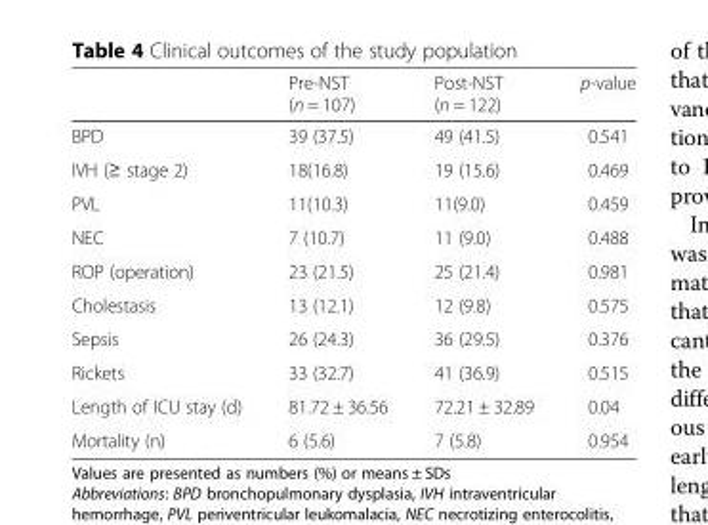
<table><thead><tr><td></td><td>Pre-NST (n = 107)</td><td>Post-NST (n = 122)</td><td>p-value</td></tr></thead><tbody><tr><td>BPD</td><td>39 (37.5)</td><td>49 (41.5)</td><td>0.541</td></tr><tr><td>IVH (≥ stage 2)</td><td>18(16.8)</td><td>19 (15.6)</td><td>0.469</td></tr><tr><td>PVL</td><td>11(10.3)</td><td>11(9.0)</td><td>0.459</td></tr><tr><td>NEC</td><td>7 (10.7)</td><td>11 (9.0)</td><td>0.488</td></tr><tr><td>ROP (operation)</td><td>23 (21.5)</td><td>25 (21.4)</td><td>0.981</td></tr><tr><td>Cholestasis</td><td>13 (12.1)</td><td>12 (9.8)</td><td>0.575</td></tr><tr><td>Sepsis</td><td>26 (24.3)</td><td>36 (29.5)</td><td>0.376</td></tr><tr><td>Rickets</td><td>33 (32.7)</td><td>41 (36.9)</td><td>0.515</td></tr><tr><td>Length of ICU stay (d)</td><td>81.72 ± 36.56</td><td>72.21 ± 32.89</td><td>0.04</td></tr><tr><td>Mortality (n)</td><td>6 (5.6)</td><td>7 (5.8)</td><td>0.954</td></tr></tbody></table>